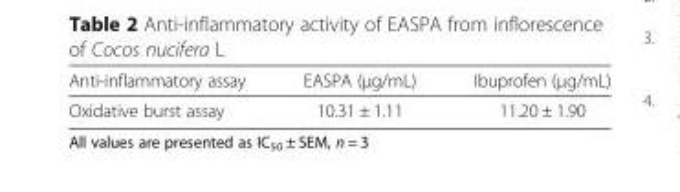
<table><thead><tr><td>Anti-inflammatory assay</td><td>EASPA (μg/mL)</td><td>Ibuprofen (μg/mL)</td></tr></thead><tbody><tr><td>Oxidative burst assay</td><td>10.31 ± 1.11</td><td>11.20 ± 1.90</td></tr></tbody></table>